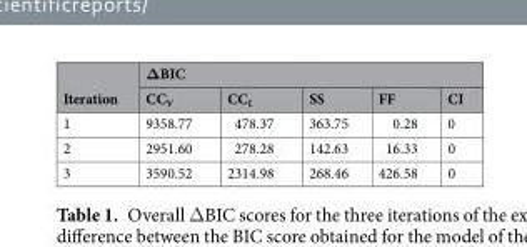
<table><thead><tr><td rowspan="2">Iteration</td><td colspan="5">ΔBIC</td></tr><tr><td>CC<sub>V</sub></td><td>CC<sub>I</sub></td><td>SS</td><td>FF</td><td>CI</td></tr></thead><tbody><tr><td>1</td><td>9358.77</td><td>478.37</td><td>363.75</td><td>0.28</td><td>0</td></tr><tr><td>2</td><td>2951.60</td><td>278.28</td><td>142.63</td><td>16.33</td><td>0</td></tr><tr><td>3</td><td>3590.52</td><td>2314.98</td><td>268.46</td><td>426.58</td><td>0</td></tr></tbody></table>